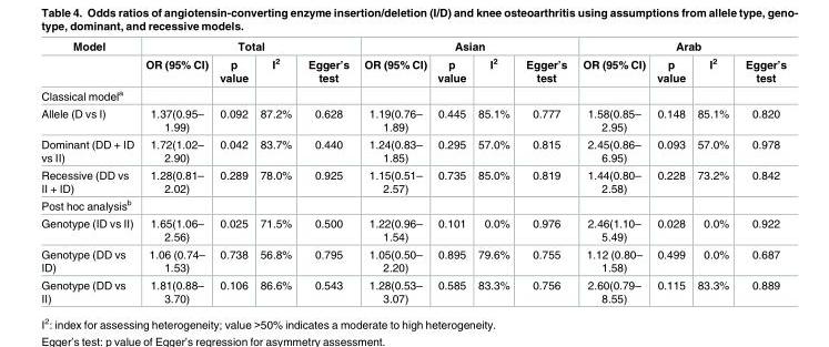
<table><thead><tr><td rowspan="2">Model</td><td colspan="4">Total</td><td colspan="4">Asian</td><td colspan="4">Arab</td></tr><tr><td>OR (95% CI)</td><td>p value</td><td>I<sup>2</sup></td><td>Egger’s test</td><td>OR (95% CI)</td><td>p value</td><td>I<sup>2</sup></td><td>Egger’s test</td><td>OR (95% CI)</td><td>p value</td><td>I<sup>2</sup></td><td>Egger’s test</td></tr></thead><tbody><tr><td colspan="13">Classical model<sup>a</sup></td></tr><tr><td>Allele (D vs I)</td><td>1.37(0.95– 1.99)</td><td>0.092</td><td>87.2%</td><td>0.628</td><td>1.19(0.76– 1.89)</td><td>0.445</td><td>85.1%</td><td>0.777</td><td>1.58(0.85– 2.95)</td><td>0.148</td><td>85.1%</td><td>0.820</td></tr><tr><td>Dominant (DD + ID vs II)</td><td>1.72(1.02– 2.90)</td><td>0.042</td><td>83.7%</td><td>0.440</td><td>1.24(0.83– 1.85)</td><td>0.295</td><td>57.0%</td><td>0.815</td><td>2.45(0.86– 6.95)</td><td>0.093</td><td>57.0%</td><td>0.978</td></tr><tr><td>Recessive (DD vs II + ID)</td><td>1.28(0.81– 2.02)</td><td>0.289</td><td>78.0%</td><td>0.925</td><td>1.15(0.51– 2.57)</td><td>0.735</td><td>85.0%</td><td>0.819</td><td>1.44(0.80– 2.58)</td><td>0.228</td><td>73.2%</td><td>0.842</td></tr><tr><td colspan="13">Post hoc analysis<sup>b</sup></td></tr><tr><td>Genotype (ID vs II)</td><td>1.65(1.06– 2.56)</td><td>0.025</td><td>71.5%</td><td>0.500</td><td>1.22(0.96– 1.54)</td><td>0.101</td><td>0.0%</td><td>0.976</td><td>2.46(1.10– 5.49)</td><td>0.028</td><td>0.0%</td><td>0.922</td></tr><tr><td>Genotype (DD vs ID)</td><td>1.06 (0.74– 1.53)</td><td>0.738</td><td>56.8%</td><td>0.795</td><td>1.05(0.50– 2.20)</td><td>0.895</td><td>79.6%</td><td>0.755</td><td>1.12 (0.80– 1.58)</td><td>0.499</td><td>0.0%</td><td>0.687</td></tr><tr><td>Genotype (DD vs II)</td><td>1.81(0.88– 3.70)</td><td>0.106</td><td>86.6%</td><td>0.543</td><td>1.28(0.53– 3.07)</td><td>0.585</td><td>83.3%</td><td>0.756</td><td>2.60(0.79– 8.55)</td><td>0.115</td><td>83.3%</td><td>0.889</td></tr></tbody></table>